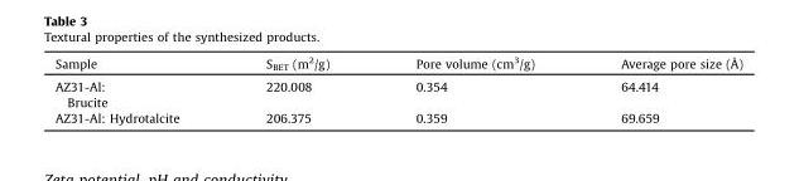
<table><thead><tr><td>Sample</td><td>S<sub>BET</sub> (m<sup>2</sup>/g)</td><td>Pore volume (cm<sup>3</sup>/g)</td><td>Average pore size (Å)</td></tr></thead><tbody><tr><td>AZ31-Al: Brucite</td><td>220.008</td><td>0.354</td><td>64.414</td></tr><tr><td>AZ31-Al: Hydrotalcite</td><td>206.375</td><td>0.359</td><td>69.659</td></tr></tbody></table>